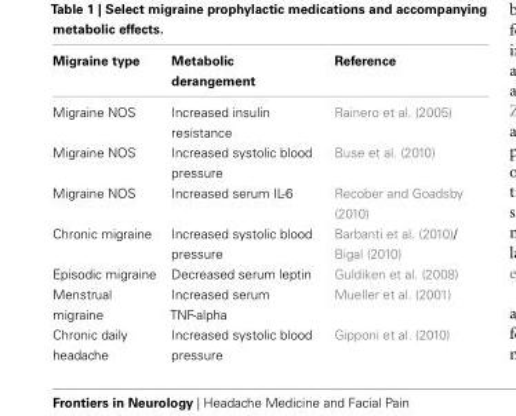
<table><thead><tr><td>Migraine type</td><td>Metabolic derangement</td><td>Reference</td></tr></thead><tbody><tr><td>Migraine NOS</td><td>Increased insulin resistance</td><td>Rainero et al. (2005)</td></tr><tr><td>Migraine NOS</td><td>Increased systolic blood pressure</td><td>Buse et al. (2010)</td></tr><tr><td>Migraine NOS</td><td>Increased serum IL-6</td><td>Recober and Goadsby (2010)</td></tr><tr><td>Chronic migraine</td><td>Increased systolic blood pressure</td><td>Barbanti et al. (2010)/ Bigal (2010)</td></tr><tr><td>Episodic migraine</td><td>Decreased serum leptin</td><td>Guldiken et al. (2008)</td></tr><tr><td>Menstrual migraine</td><td>Increased serum TNF-alpha</td><td>Mueller et al. (2001)</td></tr><tr><td>Chronic daily headache</td><td>Increased systolic blood pressure</td><td>Gipponi et al. (2010)</td></tr></tbody></table>